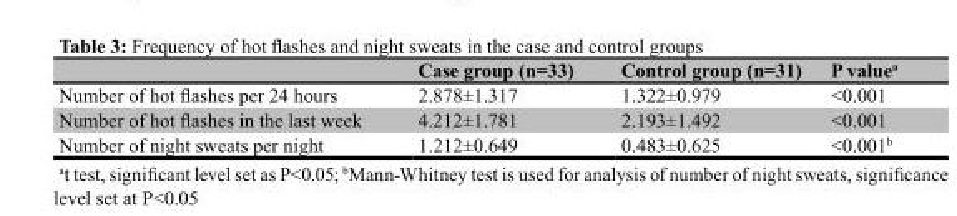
<table><thead><tr><td></td><td>Case group (n=33)</td><td>Control group (n=31)</td><td>P value<sup>a</sup></td></tr></thead><tbody><tr><td>Number of hot flashes per 24 hours</td><td>2.878±1.317</td><td>1.322±0.979</td><td>&lt;0.001</td></tr><tr><td>Number of hot flashes in the last week</td><td>4.212±1.781</td><td>2.193±1.492</td><td>&lt;0.001</td></tr><tr><td>Number of night sweats per night</td><td>1.212±0.649</td><td>0.483±0.625</td><td>&lt;0.001<sup>b</sup></td></tr></tbody></table>